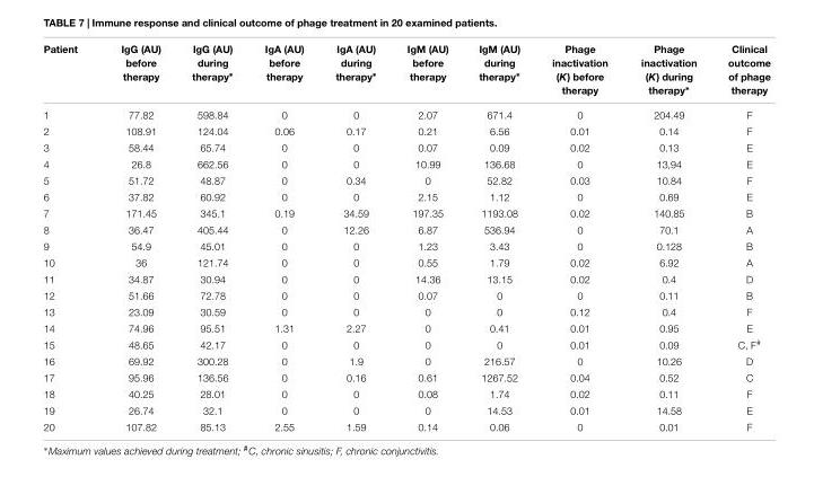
<table><thead><tr><td>Patient</td><td>IgG (AU) before therapy</td><td>IgG (AU) during therapy∗</td><td>IgA (AU) before therapy</td><td>IgA (AU) during therapy∗</td><td>IgM (AU) before therapy</td><td>IgM (AU) during therapy∗</td><td>Phage inactivation (K) before therapy</td><td>Phage inactivation (K) during therapy∗</td><td>Clinical outcome of phage therapy</td></tr></thead><tbody><tr><td>1</td><td>77.82</td><td>598.84</td><td>0</td><td>0</td><td>2.07</td><td>671.4</td><td>0</td><td>204.49</td><td>F</td></tr><tr><td>2</td><td>108.91</td><td>124.04</td><td>0.06</td><td>0.17</td><td>0.21</td><td>6.56</td><td>0.01</td><td>0.14</td><td>F</td></tr><tr><td>3</td><td>58.44</td><td>65.74</td><td>0</td><td>0</td><td>0.07</td><td>0.09</td><td>0.02</td><td>0.13</td><td>E</td></tr><tr><td>4</td><td>26.8</td><td>662.56</td><td>0</td><td>0</td><td>10.99</td><td>136.68</td><td>0</td><td>13,94</td><td>E</td></tr><tr><td>5</td><td>51.72</td><td>48.87</td><td>0</td><td>0.34</td><td>0</td><td>52.82</td><td>0.03</td><td>10.84</td><td>F</td></tr><tr><td>6</td><td>37.82</td><td>60.92</td><td>0</td><td>0</td><td>2.15</td><td>1.12</td><td>0</td><td>0.69</td><td>E</td></tr><tr><td>7</td><td>171.45</td><td>345.1</td><td>0.19</td><td>34.59</td><td>197.35</td><td>1193.08</td><td>0.02</td><td>140.85</td><td>B</td></tr><tr><td>8</td><td>36.47</td><td>405.44</td><td>0</td><td>12.26</td><td>6.87</td><td>536.94</td><td>0</td><td>70.1</td><td>A</td></tr><tr><td>9</td><td>54.9</td><td>45.01</td><td>0</td><td>0</td><td>1.23</td><td>3.43</td><td>0</td><td>0.128</td><td>B</td></tr><tr><td>10</td><td>36</td><td>121.74</td><td>0</td><td>0</td><td>0.55</td><td>1.79</td><td>0.02</td><td>6.92</td><td>A</td></tr><tr><td>11</td><td>34.87</td><td>30.94</td><td>0</td><td>0</td><td>14.36</td><td>13.15</td><td>0.02</td><td>0.4</td><td>D</td></tr><tr><td>12</td><td>51.66</td><td>72.78</td><td>0</td><td>0</td><td>0.07</td><td>0</td><td>0</td><td>0.11</td><td>B</td></tr><tr><td>13</td><td>23.09</td><td>30.59</td><td>0</td><td>0</td><td>0</td><td>0</td><td>0.12</td><td>0.4</td><td>F</td></tr><tr><td>14</td><td>74.96</td><td>95.51</td><td>1.31</td><td>2.27</td><td>0</td><td>0.41</td><td>0.01</td><td>0.95</td><td>E</td></tr><tr><td>15</td><td>48.65</td><td>42.17</td><td>0</td><td>0</td><td>0</td><td>0</td><td>0.01</td><td>0.09</td><td>C, F<sup>#</sup></td></tr><tr><td>16</td><td>69.92</td><td>300.28</td><td>0</td><td>1.9</td><td>0</td><td>216.57</td><td>0</td><td>10.26</td><td>D</td></tr><tr><td>17</td><td>95.96</td><td>136.56</td><td>0</td><td>0.16</td><td>0.61</td><td>1267.52</td><td>0.04</td><td>0.52</td><td>C</td></tr><tr><td>18</td><td>40.25</td><td>28.01</td><td>0</td><td>0</td><td>0.08</td><td>1.74</td><td>0.02</td><td>0.11</td><td>F</td></tr><tr><td>19</td><td>26.74</td><td>32.1</td><td>0</td><td>0</td><td>0</td><td>14.53</td><td>0.01</td><td>14.58</td><td>E</td></tr><tr><td>20</td><td>107.82</td><td>85.13</td><td>2.55</td><td>1.59</td><td>0.14</td><td>0.06</td><td>0</td><td>0.01</td><td>F</td></tr></tbody></table>